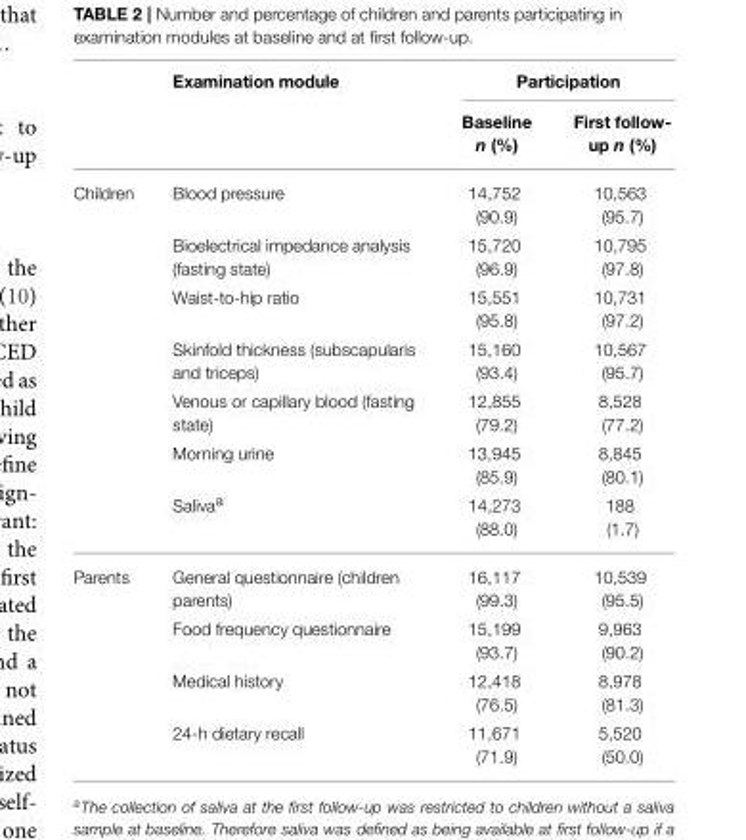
<table><thead><tr><td rowspan="2"></td><td rowspan="2">Examination module</td><td colspan="2">Participation</td></tr><tr><td>Baseline n (%)</td><td>First follow- up n (%)</td></tr></thead><tbody><tr><td rowspan="7">Children</td><td>Blood pressure</td><td>14,752 (90.9)</td><td>10,563 (95.7)</td></tr><tr><td>Bioelectrical impedance analysis (fasting state)</td><td>15,720 (96.9)</td><td>10,795 (97.8)</td></tr><tr><td>Waist-to-hip ratio</td><td>15,551 (95.8)</td><td>10,731 (97.2)</td></tr><tr><td>Skinfold thickness (subscapularis and triceps)</td><td>15,160 (93.4)</td><td>10,567 (95.7)</td></tr><tr><td>Venous or capillary blood (fasting state)</td><td>12,855 (79.2)</td><td>8,528 (77.2)</td></tr><tr><td>Morning urine</td><td>13,945 (85.9)</td><td>8,845 (80.1)</td></tr><tr><td>Saliva<sup>a</sup></td><td>14,273 (88.0)</td><td>188 (1.7)</td></tr><tr><td rowspan="4">Parents</td><td>General questionnaire (children parents)</td><td>16,117 (99.3)</td><td>10,539 (95.5)</td></tr><tr><td>Food frequency questionnaire</td><td>15,199 (93.7)</td><td>9,963 (90.2)</td></tr><tr><td>Medical history</td><td>12,418 (76.5)</td><td>8,978 (81.3)</td></tr><tr><td>24-h dietary recall</td><td>11,671 (71.9)</td><td>5,520 (50.0)</td></tr></tbody></table>